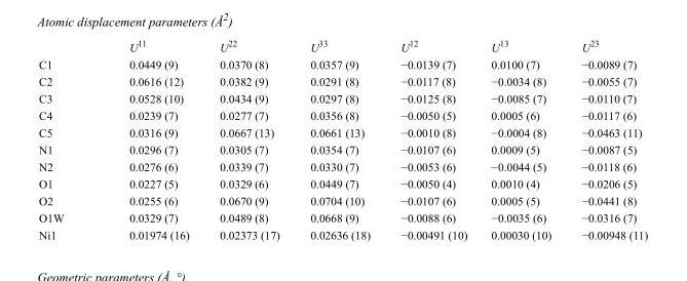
<table><thead><tr><td></td><td>U<sup>11</sup></td><td>U<sup>22</sup></td><td>U<sup>33</sup></td><td>U<sup>12</sup></td><td>U<sup>13</sup></td><td>U<sup>23</sup></td></tr></thead><tbody><tr><td>C1</td><td>0.0449 (9)</td><td>0.0370 (8)</td><td>0.0357 (9)</td><td>−0.0139 (7)</td><td>0.0100 (7)</td><td>−0.0089 (7)</td></tr><tr><td>C2</td><td>0.0616 (12)</td><td>0.0382 (9)</td><td>0.0291 (8)</td><td>−0.0117 (8)</td><td>−0.0034 (8)</td><td>−0.0055 (7)</td></tr><tr><td>C3</td><td>0.0528 (10)</td><td>0.0434 (9)</td><td>0.0297 (8)</td><td>−0.0125 (8)</td><td>−0.0085 (7)</td><td>−0.0110 (7)</td></tr><tr><td>C4</td><td>0.0239 (7)</td><td>0.0277 (7)</td><td>0.0356 (8)</td><td>−0.0050 (5)</td><td>0.0005 (6)</td><td>−0.0117 (6)</td></tr><tr><td>C5</td><td>0.0316 (9)</td><td>0.0667 (13)</td><td>0.0661 (13)</td><td>−0.0010 (8)</td><td>−0.0004 (8)</td><td>−0.0463 (11)</td></tr><tr><td>N1</td><td>0.0296 (7)</td><td>0.0305 (7)</td><td>0.0354 (7)</td><td>−0.0107 (6)</td><td>0.0009 (5)</td><td>−0.0087 (5)</td></tr><tr><td>N2</td><td>0.0276 (6)</td><td>0.0339 (7)</td><td>0.0330 (7)</td><td>−0.0053 (6)</td><td>−0.0044 (5)</td><td>−0.0118 (6)</td></tr><tr><td>O1</td><td>0.0227 (5)</td><td>0.0329 (6)</td><td>0.0449 (7)</td><td>−0.0050 (4)</td><td>0.0010 (4)</td><td>−0.0206 (5)</td></tr><tr><td>O2</td><td>0.0255 (6)</td><td>0.0670 (9)</td><td>0.0704 (10)</td><td>−0.0107 (6)</td><td>0.0005 (5)</td><td>−0.0441 (8)</td></tr><tr><td>O1W</td><td>0.0329 (7)</td><td>0.0489 (8)</td><td>0.0668 (9)</td><td>−0.0088 (6)</td><td>−0.0035 (6)</td><td>−0.0316 (7)</td></tr><tr><td>Ni1</td><td>0.01974 (16)</td><td>0.02373 (17)</td><td>0.02636 (18)</td><td>−0.00491 (10)</td><td>0.00030 (10)</td><td>−0.00948 (11)</td></tr></tbody></table>